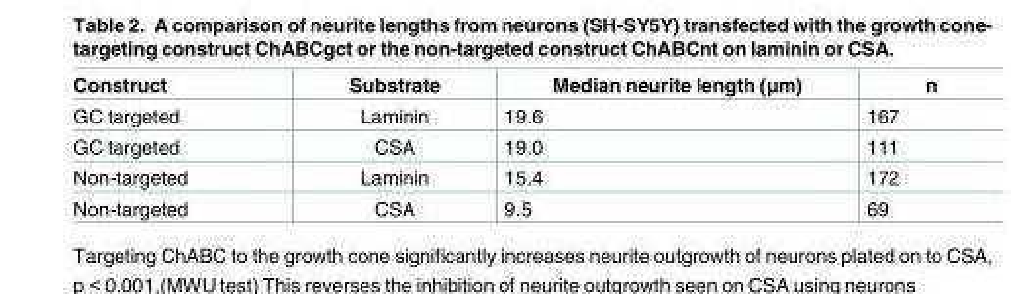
<table><thead><tr><td>Construct</td><td>Substrate</td><td>Median neurite length (μm)</td><td>n</td></tr></thead><tbody><tr><td>GC targeted</td><td>Laminin</td><td>19.6</td><td>167</td></tr><tr><td>GC targeted</td><td>CSA</td><td>19.0</td><td>111</td></tr><tr><td>Non-targeted</td><td>Laminin</td><td>15.4</td><td>172</td></tr><tr><td>Non-targeted</td><td>CSA</td><td>9.5</td><td>69</td></tr></tbody></table>